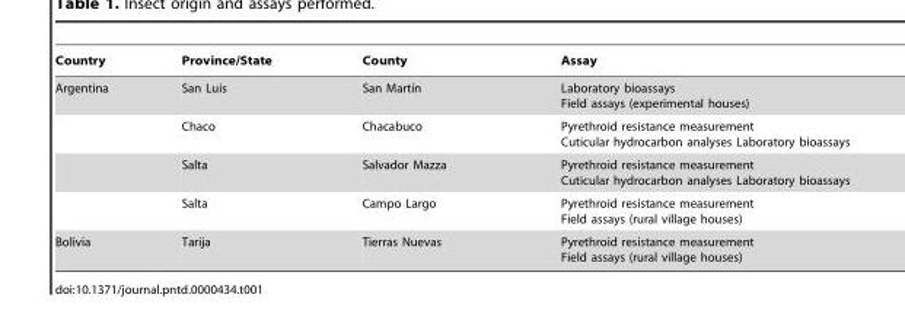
<table><thead><tr><td>Country</td><td>Province/State</td><td>County</td><td>Assay</td></tr></thead><tbody><tr><td rowspan="4">Argentina</td><td>San Luis</td><td>San Martı´n</td><td>Laboratory bioassays Field assays (experimental houses)</td></tr><tr><td>Chaco</td><td>Chacabuco</td><td>Pyrethroid resistance measurement Cuticular hydrocarbon analyses Laboratory bioassays</td></tr><tr><td>Salta</td><td>Salvador Mazza</td><td>Pyrethroid resistance measurement Cuticular hydrocarbon analyses Laboratory bioassays</td></tr><tr><td>Salta</td><td>Campo Largo</td><td>Pyrethroid resistance measurement Field assays (rural village houses)</td></tr><tr><td>Bolivia</td><td>Tarija</td><td>Tierras Nuevas</td><td>Pyrethroid resistance measurement Field assays (rural village houses)</td></tr></tbody></table>